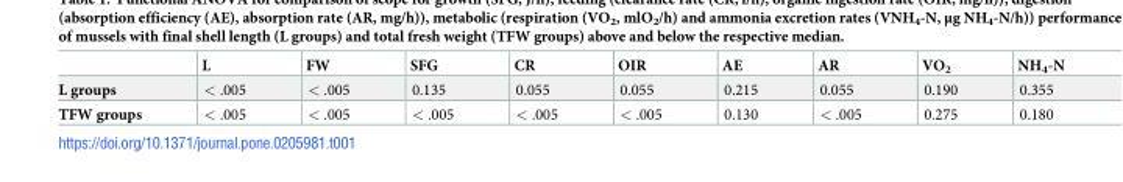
<table><thead><tr><td></td><td>L</td><td>FW</td><td>SFG</td><td>CR</td><td>OIR</td><td>AE</td><td>AR</td><td>VO<sub>2</sub></td><td>NH<sub>4</sub>-N</td></tr></thead><tbody><tr><td>L groups</td><td>&lt; .005</td><td>&lt; .005</td><td>0.135</td><td>0.055</td><td>0.055</td><td>0.215</td><td>0.055</td><td>0.190</td><td>0.355</td></tr><tr><td>TFW groups</td><td>&lt; .005</td><td>&lt; .005</td><td>&lt; .005</td><td>&lt; .005</td><td>&lt; .005</td><td>0.130</td><td>&lt; .005</td><td>0.275</td><td>0.180</td></tr></tbody></table>